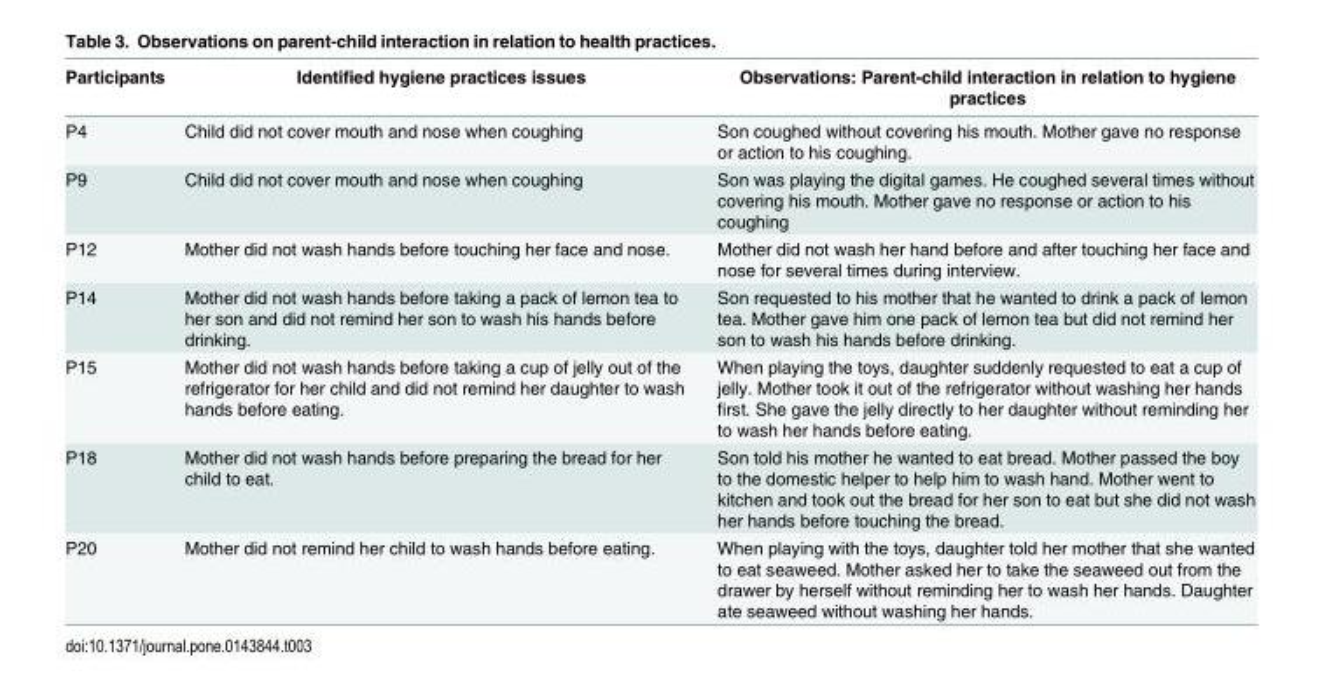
<table><thead><tr><td>Participants</td><td>Identified hygiene practices issues</td><td>Observations: Parent-child interaction in relation to hygiene practices</td></tr></thead><tbody><tr><td>P4</td><td>Child did not cover mouth and nose when coughing</td><td>Son coughed without covering his mouth. Mother gave no response or action to his coughing.</td></tr><tr><td>P9</td><td>Child did not cover mouth and nose when coughing</td><td>Son was playing the digital games. He coughed several times without covering his mouth. Mother gave no response or action to his coughing</td></tr><tr><td>P12</td><td>Mother did not wash hands before touching her face and nose.</td><td>Mother did not wash her hand before and after touching her face and nose for several times during interview.</td></tr><tr><td>P14</td><td>Mother did not wash hands before taking a pack of lemon tea to her son and did not remind her son to wash his hands before drinking.</td><td>Son requested to his mother that he wanted to drink a pack of lemon tea. Mother gave him one pack of lemon tea but did not remind her son to wash his hands before drinking.</td></tr><tr><td>P15</td><td>Mother did not wash hands before taking a cup of jelly out of the refrigerator for her child and did not remind her daughter to wash hands before eating.</td><td>When playing the toys, daughter suddenly requested to eat a cup of jelly. Mother took it out of the refrigerator without washing her hands first. She gave the jelly directly to her daughter without reminding her to wash her hands before eating.</td></tr><tr><td>P18</td><td>Mother did not wash hands before preparing the bread for her child to eat.</td><td>Son told his mother he wanted to eat bread. Mother passed the boy to the domestic helper to help him to wash hand. Mother went to kitchen and took out the bread for her son to eat but she did not wash her hands before touching the bread.</td></tr><tr><td>P20</td><td>Mother did not remind her child to wash hands before eating.</td><td>When playing with the toys, daughter told her mother that she wanted to eat seaweed. Mother asked her to take the seaweed out from the drawer by herself without reminding her to wash her hands. Daughter ate seaweed without washing her hands.</td></tr></tbody></table>